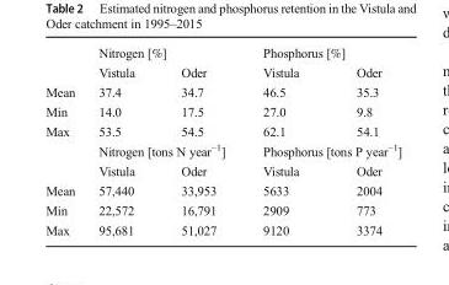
<table><thead><tr><td rowspan="2"></td><td colspan="2">Nitrogen [%]</td><td colspan="2">Phosphorus [%]</td></tr><tr><td>Vistula</td><td>Oder</td><td>Vistula</td><td>Oder</td></tr></thead><tbody><tr><td>Mean</td><td>37.4</td><td>34.7</td><td>46.5</td><td>35.3</td></tr><tr><td>Min</td><td>14.0</td><td>17.5</td><td>27.0</td><td>9.8</td></tr><tr><td rowspan="3">Max</td><td>53.5</td><td>54.5</td><td>62.1</td><td>54.1</td></tr><tr><td colspan="2">Nitrogen [tons N year<sup>−1</sup>]</td><td colspan="2">Phosphorus [tons P year<sup>−1</sup>]</td></tr><tr><td>Vistula</td><td>Oder</td><td>Vistula</td><td>Oder</td></tr><tr><td>Mean</td><td>57,440</td><td>33,953</td><td>5633</td><td>2004</td></tr><tr><td>Min</td><td>22,572</td><td>16,791</td><td>2909</td><td>773</td></tr><tr><td>Max</td><td>95,681</td><td>51,027</td><td>9120</td><td>3374</td></tr></tbody></table>